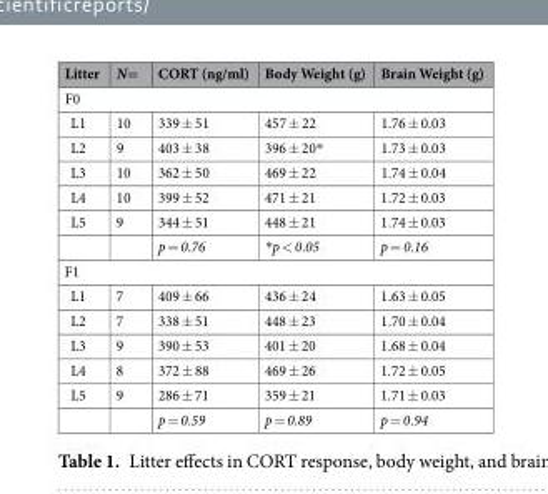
<table><thead><tr><td>Litter</td><td>N=</td><td>CORT (ng/ml)</td><td>Body Weight (g)</td><td>Brain Weight (g)</td></tr></thead><tbody><tr><td colspan="5">F0</td></tr><tr><td>L1</td><td>10</td><td>339 ± 51</td><td>457 ± 22</td><td>1.76 ± 0.03</td></tr><tr><td>L2</td><td>9</td><td>403 ± 38</td><td>396 ± 20*</td><td>1.73 ± 0.03</td></tr><tr><td>L3</td><td>10</td><td>362 ± 50</td><td>469 ± 22</td><td>1.74 ± 0.04</td></tr><tr><td>L4</td><td>10</td><td>399 ± 52</td><td>471 ± 21</td><td>1.72 ± 0.03</td></tr><tr><td rowspan="2">L5</td><td>9</td><td>344 ± 51</td><td>448 ± 21</td><td>1.74 ± 0.03</td></tr><tr><td></td><td>p = 0.76</td><td>*p &lt; 0.05</td><td>p = 0.16</td></tr><tr><td colspan="5">F1</td></tr><tr><td>L1</td><td>7</td><td>409 ± 66</td><td>436 ± 24</td><td>1.63 ± 0.05</td></tr><tr><td>L2</td><td>7</td><td>338 ± 51</td><td>448 ± 23</td><td>1.70 ± 0.04</td></tr><tr><td>L3</td><td>9</td><td>390 ± 53</td><td>401 ± 20</td><td>1.68 ± 0.04</td></tr><tr><td>L4</td><td>8</td><td>372 ± 88</td><td>469 ± 26</td><td>1.72 ± 0.05</td></tr><tr><td rowspan="2">L5</td><td>9</td><td>286 ± 71</td><td>359 ± 21</td><td>1.71 ± 0.03</td></tr><tr><td></td><td>p = 0.59</td><td>p = 0.89</td><td>p = 0.94</td></tr></tbody></table>